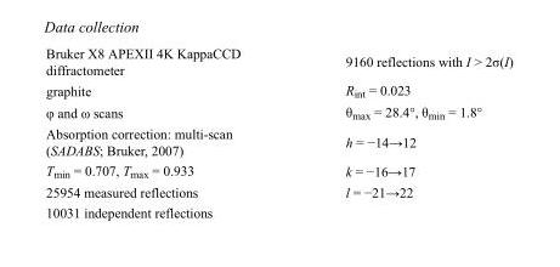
<table><tbody><tr><td>Bruker X8 APEXII 4K KappaCCD diffractometer</td><td>9160 reflections with I &gt; 2σ(I)</td></tr><tr><td>graphite</td><td>R<sub>int</sub> = 0.023</td></tr><tr><td>φ and ω scans</td><td>θ<sub>max</sub> = 28.4°, θ<sub>min</sub> = 1.8°</td></tr><tr><td>Absorption correction: multi-scan (SADABS; Bruker, 2007)</td><td>h = −14→12</td></tr><tr><td>T<sub>min</sub> = 0.707, T<sub>max</sub> = 0.933</td><td>k = −16→17</td></tr><tr><td>25954 measured reflections</td><td>l = −21→22</td></tr><tr><td>10031 independent reflections</td><td></td></tr></tbody></table>